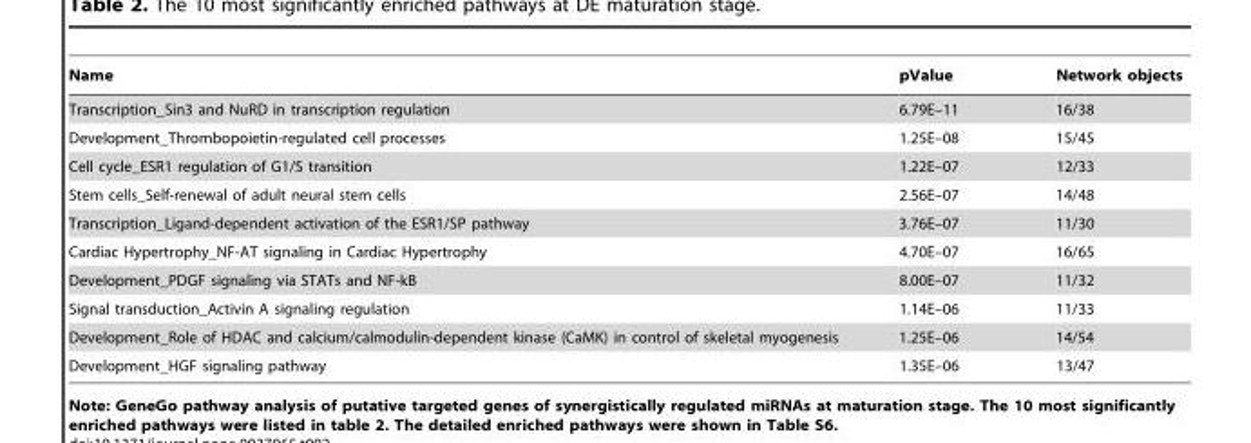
<table><thead><tr><td>Name</td><td>pValue</td><td>Network objects</td></tr></thead><tbody><tr><td>Transcription_Sin3 and NuRD in transcription regulation</td><td>6.79E–11</td><td>16/38</td></tr><tr><td>Development_Thrombopoietin-regulated cell processes</td><td>1.25E–08</td><td>15/45</td></tr><tr><td>Cell cycle_ESR1 regulation of G1/S transition</td><td>1.22E–07</td><td>12/33</td></tr><tr><td>Stem cells_Self-renewal of adult neural stem cells</td><td>2.56E–07</td><td>14/48</td></tr><tr><td>Transcription_Ligand-dependent activation of the ESR1/SP pathway</td><td>3.76E–07</td><td>11/30</td></tr><tr><td>Cardiac Hypertrophy_NF-AT signaling in Cardiac Hypertrophy</td><td>4.70E–07</td><td>16/65</td></tr><tr><td>Development_PDGF signaling via STATs and NF-kB</td><td>8.00E–07</td><td>11/32</td></tr><tr><td>Signal transduction_Activin A signaling regulation</td><td>1.14E–06</td><td>11/33</td></tr><tr><td>Development_Role of HDAC and calcium/calmodulin-dependent kinase (CaMK) in control of skeletal myogenesis</td><td>1.25E–06</td><td>14/54</td></tr><tr><td>Development_HGF signaling pathway</td><td>1.35E–06</td><td>13/47</td></tr></tbody></table>